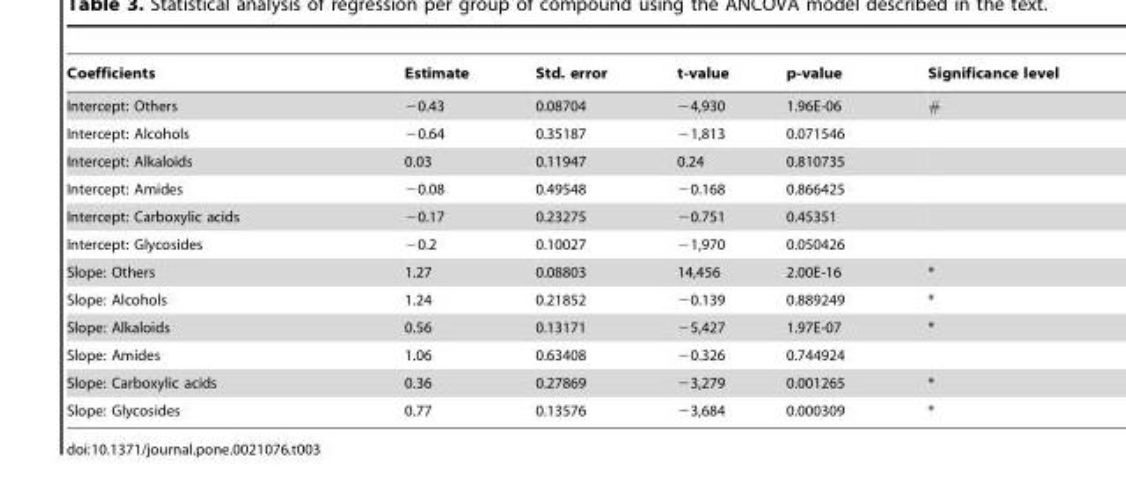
<table><thead><tr><td>Coefficients</td><td>Estimate</td><td>Std. error</td><td>t-value</td><td>p-value</td><td>Significance level</td></tr></thead><tbody><tr><td>Intercept: Others</td><td>−0.43</td><td>0.08704</td><td>−4,930</td><td>1.96E-06</td><td>#</td></tr><tr><td>Intercept: Alcohols</td><td>−0.64</td><td>0.35187</td><td>−1,813</td><td>0.071546</td><td></td></tr><tr><td>Intercept: Alkaloids</td><td>0.03</td><td>0.11947</td><td>0.24</td><td>0.810735</td><td></td></tr><tr><td>Intercept: Amides</td><td>−0.08</td><td>0.49548</td><td>−0.168</td><td>0.866425</td><td></td></tr><tr><td>Intercept: Carboxylic acids</td><td>−0.17</td><td>0.23275</td><td>−0.751</td><td>0.45351</td><td></td></tr><tr><td>Intercept: Glycosides</td><td>−0.2</td><td>0.10027</td><td>−1,970</td><td>0.050426</td><td></td></tr><tr><td>Slope: Others</td><td>1.27</td><td>0.08803</td><td>14,456</td><td>2.00E-16</td><td>*</td></tr><tr><td>Slope: Alcohols</td><td>1.24</td><td>0.21852</td><td>−0.139</td><td>0.889249</td><td>*</td></tr><tr><td>Slope: Alkaloids</td><td>0.56</td><td>0.13171</td><td>−5,427</td><td>1.97E-07</td><td>*</td></tr><tr><td>Slope: Amides</td><td>1.06</td><td>0.63408</td><td>−0.326</td><td>0.744924</td><td></td></tr><tr><td>Slope: Carboxylic acids</td><td>0.36</td><td>0.27869</td><td>−3,279</td><td>0.001265</td><td>*</td></tr><tr><td>Slope: Glycosides</td><td>0.77</td><td>0.13576</td><td>−3,684</td><td>0.000309</td><td>*</td></tr></tbody></table>